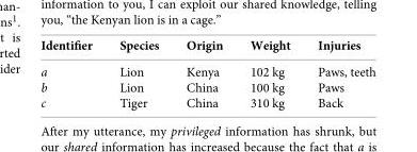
<table><thead><tr><td>Identifier</td><td>Species</td><td>Origin</td><td>Weight</td><td>Injuries</td></tr></thead><tbody><tr><td>a</td><td>Lion</td><td>Kenya</td><td>102 kg</td><td>Paws, teeth</td></tr><tr><td>b</td><td>Lion</td><td>China</td><td>100 kg</td><td>Paws</td></tr><tr><td>c</td><td>Tiger</td><td>China</td><td>310 kg</td><td>Back</td></tr></tbody></table>